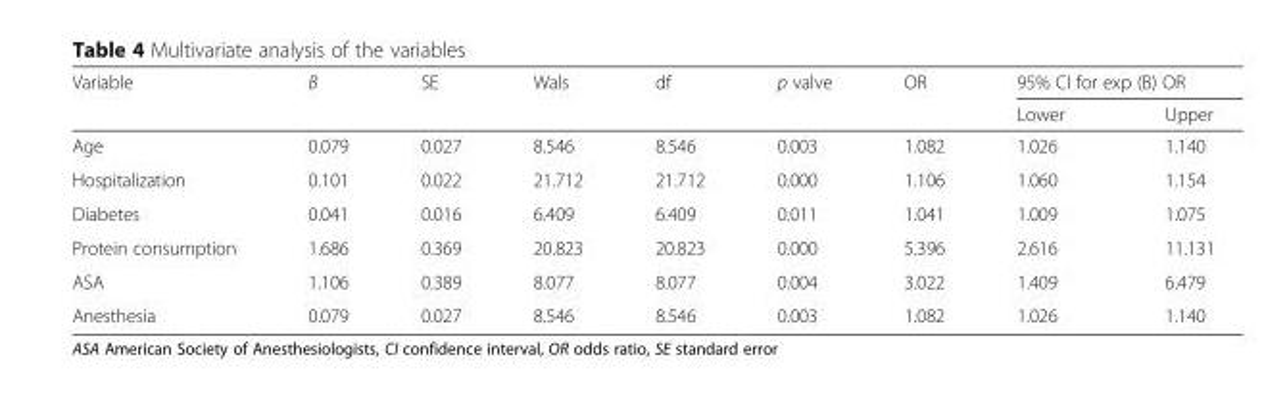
<table><thead><tr><td rowspan="2">Variable</td><td rowspan="2">B</td><td rowspan="2">SE</td><td rowspan="2">Wals</td><td rowspan="2">df</td><td rowspan="2">p valve</td><td rowspan="2">OR</td><td colspan="2">95% CI for exp (B) OR</td></tr><tr><td>Lower</td><td>Upper</td></tr></thead><tbody><tr><td>Age</td><td>0.079</td><td>0.027</td><td>8.546</td><td>8.546</td><td>0.003</td><td>1.082</td><td>1.026</td><td>1.140</td></tr><tr><td>Hospitalization</td><td>0.101</td><td>0.022</td><td>21.712</td><td>21.712</td><td>0.000</td><td>1.106</td><td>1.060</td><td>1.154</td></tr><tr><td>Diabetes</td><td>0.041</td><td>0.016</td><td>6.409</td><td>6.409</td><td>0.011</td><td>1.041</td><td>1.009</td><td>1.075</td></tr><tr><td>Protein consumption</td><td>1.686</td><td>0.369</td><td>20.823</td><td>20.823</td><td>0.000</td><td>5.396</td><td>2.616</td><td>11.131</td></tr><tr><td>ASA</td><td>1.106</td><td>0.389</td><td>8.077</td><td>8.077</td><td>0.004</td><td>3.022</td><td>1.409</td><td>6.479</td></tr><tr><td>Anesthesia</td><td>0.079</td><td>0.027</td><td>8.546</td><td>8.546</td><td>0.003</td><td>1.082</td><td>1.026</td><td>1.140</td></tr></tbody></table>